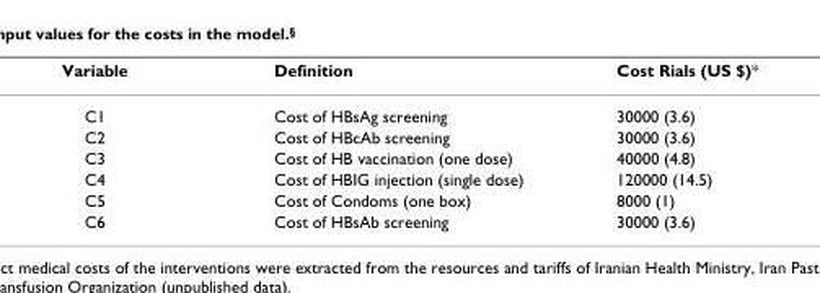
<table><thead><tr><td>Variable</td><td>Definition</td><td>Cost Rials (US $)*</td></tr></thead><tbody><tr><td>C1</td><td>Cost of HBsAg screening</td><td>30000 (3.6)</td></tr><tr><td>C2</td><td>Cost of HBcAb screening</td><td>30000 (3.6)</td></tr><tr><td>C3</td><td>Cost of HB vaccination (one dose)</td><td>40000 (4.8)</td></tr><tr><td>C4</td><td>Cost of HBIG injection (single dose)</td><td>120000 (14.5)</td></tr><tr><td>C5</td><td>Cost of Condoms (one box)</td><td>8000 (1)</td></tr><tr><td>C6</td><td>Cost of HBsAb screening</td><td>30000 (3.6)</td></tr></tbody></table>